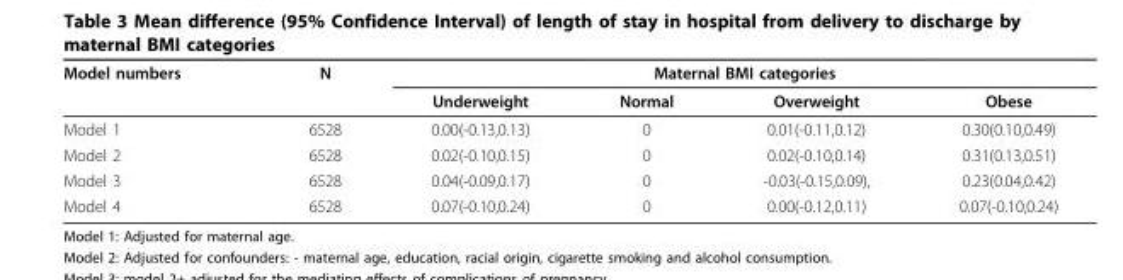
<table><thead><tr><td rowspan="2">Model numbers</td><td rowspan="2">N</td><td colspan="4">Maternal BMI categories</td></tr><tr><td>Underweight</td><td>Normal</td><td>Overweight</td><td>Obese</td></tr></thead><tbody><tr><td>Model 1</td><td>6528</td><td>0.00(-0.13,0.13)</td><td>0</td><td>0.01(-0.11,0.12)</td><td>0.30(0.10,0.49)</td></tr><tr><td>Model 2</td><td>6528</td><td>0.02(-0.10,0.15)</td><td>0</td><td>0.02(-0.10,0.14)</td><td>0.31(0.13,0.51)</td></tr><tr><td>Model 3</td><td>6528</td><td>0.04(-0.09,0.17)</td><td>0</td><td>-0.03(-0.15,0.09),</td><td>0.23(0.04,0.42)</td></tr><tr><td>Model 4</td><td>6528</td><td>0.07(-0.10,0.24)</td><td>0</td><td>0.00(-0.12,0.11)</td><td>0.07(-0.10,0.24)</td></tr></tbody></table>